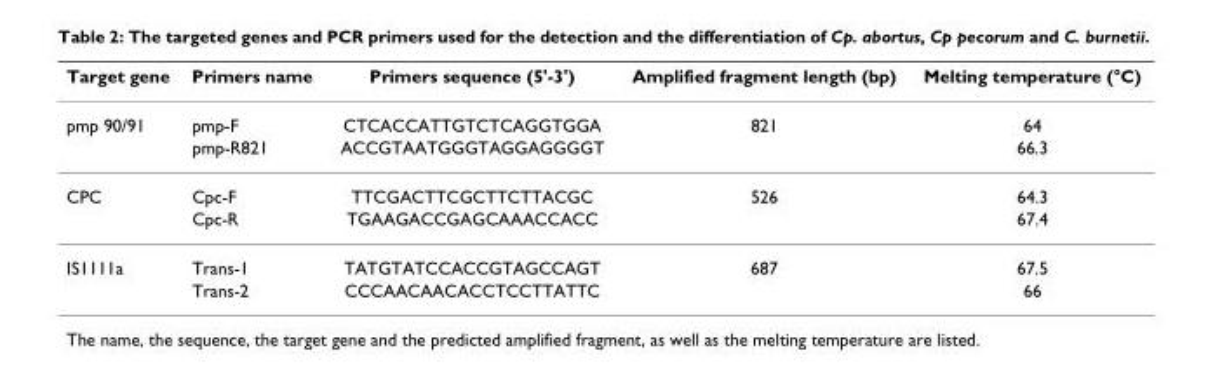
<table><thead><tr><td>Target gene</td><td>Primers name</td><td>Primers sequence (5&#x27;-3&#x27;)</td><td>Amplified fragment length (bp)</td><td>Melting temperature (°C)</td></tr></thead><tbody><tr><td rowspan="2">pmp 90/91</td><td>pmp-F</td><td>CTCACCATTGTCTCAGGTGGA</td><td>821</td><td>64</td></tr><tr><td>pmp-R821</td><td>ACCGTAATGGGTAGGAGGGGT</td><td></td><td>66.3</td></tr><tr><td rowspan="2">CPC</td><td>Cpc-F</td><td>TTCGACTTCGCTTCTTACGC</td><td>526</td><td>64.3</td></tr><tr><td>Cpc-R</td><td>TGAAGACCGAGCAAACCACC</td><td></td><td>67.4</td></tr><tr><td rowspan="2">IS1111a</td><td>Trans-1</td><td>TATGTATCCACCGTAGCCAGT</td><td>687</td><td>67.5</td></tr><tr><td>Trans-2</td><td>CCCAACAACACCTCCTTATTC</td><td></td><td>66</td></tr></tbody></table>